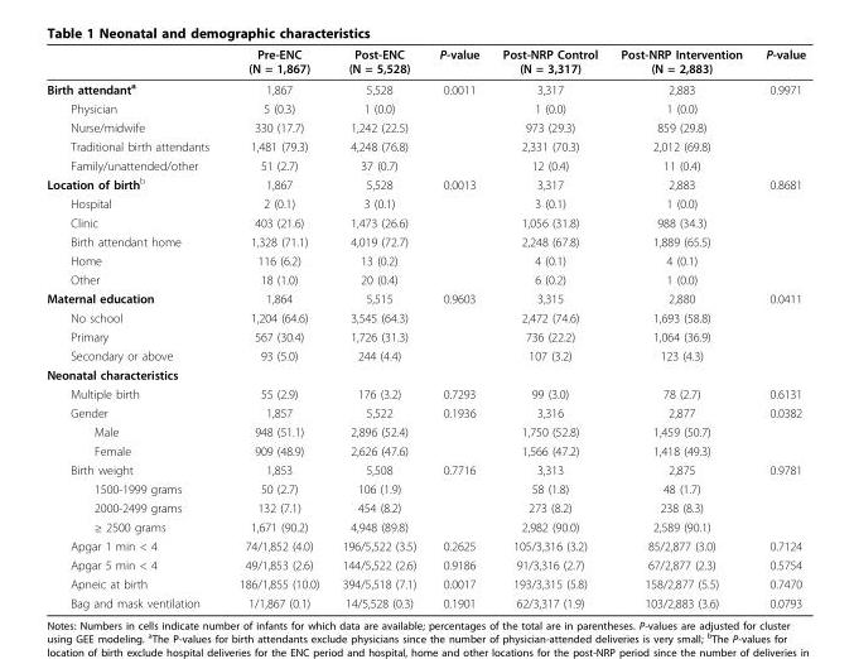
<table><thead><tr><td></td><td>Pre-ENC (N = 1,867)</td><td>Post-ENC (N = 5,528)</td><td>P-value</td><td>Post-NRP Control (N = 3,317)</td><td>Post-NRP Intervention (N = 2,883)</td><td>P-value</td></tr></thead><tbody><tr><td>Birth attendant<sup>a</sup></td><td>1,867</td><td>5,528</td><td>0.0011</td><td>3,317</td><td>2,883</td><td>0.9971</td></tr><tr><td>Physician</td><td>5 (0.3)</td><td>1 (0.0)</td><td></td><td>1 (0.0)</td><td>1 (0.0)</td><td></td></tr><tr><td>Nurse/midwife</td><td>330 (17.7)</td><td>1,242 (22.5)</td><td></td><td>973 (29.3)</td><td>859 (29.8)</td><td></td></tr><tr><td>Traditional birth attendants</td><td>1,481 (79.3)</td><td>4,248 (76.8)</td><td></td><td>2,331 (70.3)</td><td>2,012 (69.8)</td><td></td></tr><tr><td>Family/unattended/other</td><td>51 (2.7)</td><td>37 (0.7)</td><td></td><td>12 (0.4)</td><td>11 (0.4)</td><td></td></tr><tr><td>Location of birth<sup>b</sup></td><td>1,867</td><td>5,528</td><td>0.0013</td><td>3,317</td><td>2,883</td><td>0.8681</td></tr><tr><td>Hospital</td><td>2 (0.1)</td><td>3 (0.1)</td><td></td><td>3 (0.1)</td><td>1 (0.0)</td><td></td></tr><tr><td>Clinic</td><td>403 (21.6)</td><td>1,473 (26.6)</td><td></td><td>1,056 (31.8)</td><td>988 (34.3)</td><td></td></tr><tr><td>Birth attendant home</td><td>1,328 (71.1)</td><td>4,019 (72.7)</td><td></td><td>2,248 (67.8)</td><td>1,889 (65.5)</td><td></td></tr><tr><td>Home</td><td>116 (6.2)</td><td>13 (0.2)</td><td></td><td>4 (0.1)</td><td>4 (0.1)</td><td></td></tr><tr><td>Other</td><td>18 (1.0)</td><td>20 (0.4)</td><td></td><td>6 (0.2)</td><td>1 (0.0)</td><td></td></tr><tr><td>Maternal education</td><td>1,864</td><td>5,515</td><td>0.9603</td><td>3,315</td><td>2,880</td><td>0.0411</td></tr><tr><td>No school</td><td>1,204 (64.6)</td><td>3,545 (64.3)</td><td></td><td>2,472 (74.6)</td><td>1,693 (58.8)</td><td></td></tr><tr><td>Primary</td><td>567 (30.4)</td><td>1,726 (31.3)</td><td></td><td>736 (22.2)</td><td>1,064 (36.9)</td><td></td></tr><tr><td>Secondary or above</td><td>93 (5.0)</td><td>244 (4.4)</td><td></td><td>107 (3.2)</td><td>123 (4.3)</td><td></td></tr><tr><td colspan="7">Neonatal characteristics</td></tr><tr><td>Multiple birth</td><td>55 (2.9)</td><td>176 (3.2)</td><td>0.7293</td><td>99 (3.0)</td><td>78 (2.7)</td><td>0.6131</td></tr><tr><td>Gender</td><td>1,857</td><td>5,522</td><td>0.1936</td><td>3,316</td><td>2,877</td><td>0.0382</td></tr><tr><td>Male</td><td>948 (51.1)</td><td>2,896 (52.4)</td><td></td><td>1,750 (52.8)</td><td>1,459 (50.7)</td><td></td></tr><tr><td>Female</td><td>909 (48.9)</td><td>2,626 (47.6)</td><td></td><td>1,566 (47.2)</td><td>1,418 (49.3)</td><td></td></tr><tr><td>Birth weight</td><td>1,853</td><td>5,508</td><td>0.7716</td><td>3,313</td><td>2,875</td><td>0.9781</td></tr><tr><td>1500-1999 grams</td><td>50 (2.7)</td><td>106 (1.9)</td><td></td><td>58 (1.8)</td><td>48 (1.7)</td><td></td></tr><tr><td>2000-2499 grams</td><td>132 (7.1)</td><td>454 (8.2)</td><td></td><td>273 (8.2)</td><td>238 (8.3)</td><td></td></tr><tr><td>≥ 2500 grams</td><td>1,671 (90.2)</td><td>4,948 (89.8)</td><td></td><td>2,982 (90.0)</td><td>2,589 (90.1)</td><td></td></tr><tr><td>Apgar 1 min &lt; 4</td><td>74/1,852 (4.0)</td><td>196/5,522 (3.5)</td><td>0.2625</td><td>105/3,316 (3.2)</td><td>85/2,877 (3.0)</td><td>0.7124</td></tr><tr><td>Apgar 5 min &lt; 4</td><td>49/1,853 (2.6)</td><td>144/5,522 (2.6)</td><td>0.9186</td><td>91/3,316 (2.7)</td><td>67/2,877 (2.3)</td><td>0.5754</td></tr><tr><td>Apneic at birth</td><td>186/1,855 (10.0)</td><td>394/5,518 (7.1)</td><td>0.0017</td><td>193/3,315 (5.8)</td><td>158/2,877 (5.5)</td><td>0.7470</td></tr><tr><td>Bag and mask ventilation</td><td>1/1,867 (0.1)</td><td>14/5,528 (0.3)</td><td>0.1901</td><td>62/3,317 (1.9)</td><td>103/2,883 (3.6)</td><td>0.0793</td></tr></tbody></table>